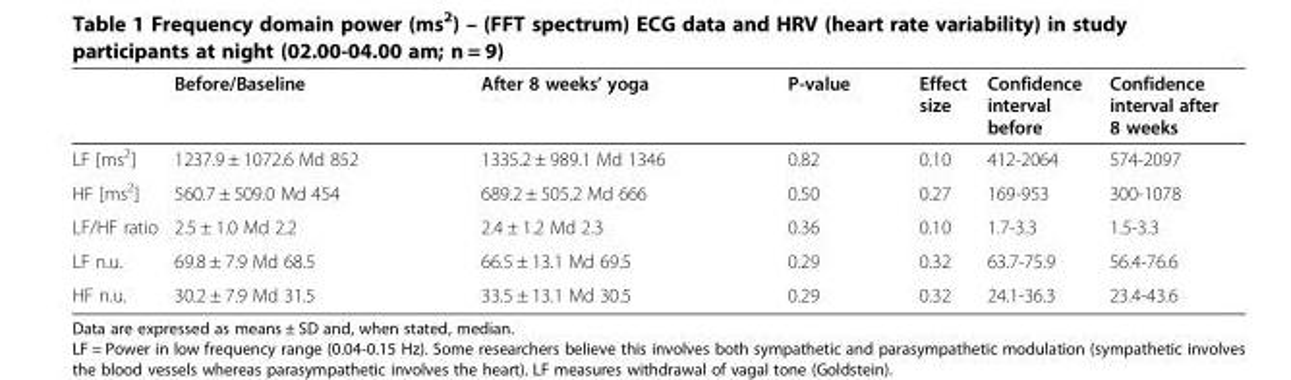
<table><thead><tr><td></td><td>Before/Baseline</td><td>After 8 weeks’ yoga</td><td>P-value</td><td>Effect size</td><td>Confidence interval before</td><td>Confidence interval after 8 weeks</td></tr></thead><tbody><tr><td>LF [ms<sup>2</sup>]</td><td>1237.9 ± 1072.6 Md 852</td><td>1335.2 ± 989.1 Md 1346</td><td>0.82</td><td>0.10</td><td>412-2064</td><td>574-2097</td></tr><tr><td>HF [ms<sup>2</sup>]</td><td>560.7 ± 509.0 Md 454</td><td>689.2 ± 505.2 Md 666</td><td>0.50</td><td>0.27</td><td>169-953</td><td>300-1078</td></tr><tr><td>LF/HF ratio</td><td>2.5 ± 1.0 Md 2.2</td><td>2.4 ± 1.2 Md 2.3</td><td>0.36</td><td>0.10</td><td>1.7-3.3</td><td>1.5-3.3</td></tr><tr><td>LF n.u.</td><td>69.8 ± 7.9 Md 68.5</td><td>66.5 ± 13.1 Md 69.5</td><td>0.29</td><td>0.32</td><td>63.7-75.9</td><td>56.4-76.6</td></tr><tr><td>HF n.u.</td><td>30.2 ± 7.9 Md 31.5</td><td>33.5 ± 13.1 Md 30.5</td><td>0.29</td><td>0.32</td><td>24.1-36.3</td><td>23.4-43.6</td></tr></tbody></table>